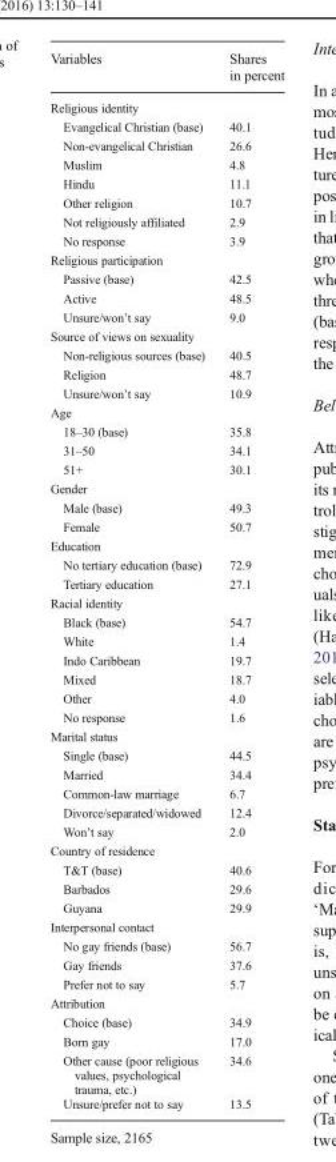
<table><thead><tr><td>Variables</td><td>Shares in percent</td></tr></thead><tbody><tr><td colspan="2">Religious identity</td></tr><tr><td>Evangelical Christian (base)</td><td>40.1</td></tr><tr><td>Non-evangelical Christian</td><td>26.6</td></tr><tr><td>Muslim</td><td>4.8</td></tr><tr><td>Hindu</td><td>11.1</td></tr><tr><td>Other religion</td><td>10.7</td></tr><tr><td>Not religiously affiliated</td><td>2.9</td></tr><tr><td>No response</td><td>3.9</td></tr><tr><td colspan="2">Religious participation</td></tr><tr><td>Passive (base)</td><td>42.5</td></tr><tr><td>Active</td><td>48.5</td></tr><tr><td>Unsure/won’t say</td><td>9.0</td></tr><tr><td colspan="2">Source of views on sexuality</td></tr><tr><td>Non-religious sources (base)</td><td>40.5</td></tr><tr><td>Religion</td><td>48.7</td></tr><tr><td>Unsure/won’t say</td><td>10.9</td></tr><tr><td colspan="2">Age</td></tr><tr><td>18–30 (base)</td><td>35.8</td></tr><tr><td>31–50</td><td>34.1</td></tr><tr><td>51+</td><td>30.1</td></tr><tr><td colspan="2">Gender</td></tr><tr><td>Male (base)</td><td>49.3</td></tr><tr><td>Female</td><td>50.7</td></tr><tr><td colspan="2">Education</td></tr><tr><td>No tertiary education (base)</td><td>72.9</td></tr><tr><td>Tertiary education</td><td>27.1</td></tr><tr><td colspan="2">Racial identity</td></tr><tr><td>Black (base)</td><td>54.7</td></tr><tr><td>White</td><td>1.4</td></tr><tr><td>Indo Caribbean</td><td>19.7</td></tr><tr><td>Mixed</td><td>18.7</td></tr><tr><td>Other</td><td>4.0</td></tr><tr><td>No response</td><td>1.6</td></tr><tr><td colspan="2">Marital status</td></tr><tr><td>Single (base)</td><td>44.5</td></tr><tr><td>Married</td><td>34.4</td></tr><tr><td>Common-law marriage</td><td>6.7</td></tr><tr><td>Divorce/separated/widowed</td><td>12.4</td></tr><tr><td>Won’t say</td><td>2.0</td></tr><tr><td colspan="2">Country of residence</td></tr><tr><td>T&amp;T (base)</td><td>40.6</td></tr><tr><td>Barbados</td><td>29.6</td></tr><tr><td>Guyana</td><td>29.9</td></tr><tr><td colspan="2">Interpersonal contact</td></tr><tr><td>No gay friends (base)</td><td>56.7</td></tr><tr><td>Gay friends</td><td>37.6</td></tr><tr><td>Prefer not to say</td><td>5.7</td></tr><tr><td colspan="2">Attribution</td></tr><tr><td>Choice (base)</td><td>34.9</td></tr><tr><td>Born gay</td><td>17.0</td></tr><tr><td>Other cause (poor religious values, psychological trauma, etc.)</td><td>34.6</td></tr><tr><td>Unsure/prefer not to say</td><td>13.5</td></tr></tbody></table>